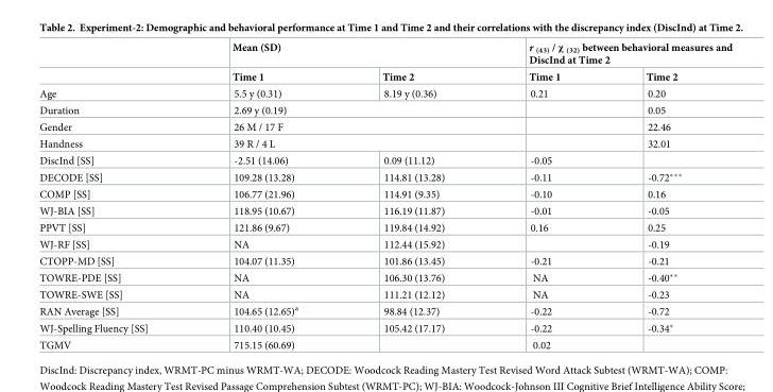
<table><thead><tr><td rowspan="2"></td><td colspan="2">Mean (SD)</td><td colspan="2">r <sub>(43)</sub> / χ <sub>(32)</sub> between behavioral measures and DiscInd at Time 2</td></tr><tr><td>Time 1</td><td>Time 2</td><td>Time 1</td><td>Time 2</td></tr></thead><tbody><tr><td>Age</td><td>5.5 y (0.31)</td><td>8.19 y (0.36)</td><td>0.21</td><td>0.20</td></tr><tr><td>Duration</td><td colspan="2">2.69 y (0.19)</td><td></td><td>0.05</td></tr><tr><td>Gender</td><td colspan="2">26 M / 17 F</td><td></td><td>22.46</td></tr><tr><td>Handness</td><td colspan="2">39 R / 4 L</td><td></td><td>32.01</td></tr><tr><td>DiscInd [SS]</td><td>-2.51 (14.06)</td><td>0.09 (11.12)</td><td>-0.05</td><td></td></tr><tr><td>DECODE [SS]</td><td>109.28 (13.28)</td><td>114.81 (13.28)</td><td>-0.11</td><td>-0.72***</td></tr><tr><td>COMP [SS]</td><td>106.77 (21.96)</td><td>114.91 (9.35)</td><td>-0.10</td><td>0.16</td></tr><tr><td>WJ-BIA [SS]</td><td>118.95 (10.67)</td><td>116.19 (11.87)</td><td>-0.01</td><td>-0.05</td></tr><tr><td>PPVT [SS]</td><td>121.86 (9.67)</td><td>119.84 (14.92)</td><td>0.16</td><td>0.25</td></tr><tr><td>WJ-RF [SS]</td><td>NA</td><td>112.44 (15.92)</td><td></td><td>-0.19</td></tr><tr><td>CTOPP-MD [SS]</td><td>104.07 (11.35)</td><td>101.86 (13.45)</td><td>-0.21</td><td>-0.21</td></tr><tr><td>TOWRE-PDE [SS]</td><td>NA</td><td>106.30 (13.76)</td><td>NA</td><td>-0.40**</td></tr><tr><td>TOWRE-SWE [SS]</td><td>NA</td><td>111.21 (12.12)</td><td>NA</td><td>-0.23</td></tr><tr><td>RAN Average [SS]</td><td>104.65 (12.65)<sup>a</sup></td><td>98.84 (12.37)</td><td>-0.22</td><td>-0.72</td></tr><tr><td>WJ-Spelling Fluency [SS]</td><td>110.40 (10.45)</td><td>105.42 (17.17)</td><td>-0.22</td><td>-0.34*</td></tr><tr><td>TGMV</td><td>715.15 (60.69)</td><td></td><td>0.02</td><td></td></tr></tbody></table>